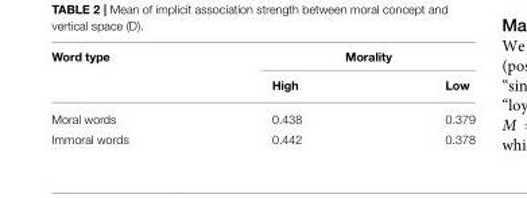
<table><thead><tr><td rowspan="2">Word type</td><td colspan="2">Morality</td></tr><tr><td>High</td><td>Low</td></tr></thead><tbody><tr><td>Moral words</td><td>0.438</td><td>0.379</td></tr><tr><td>Immoral words</td><td>0.442</td><td>0.378</td></tr></tbody></table>